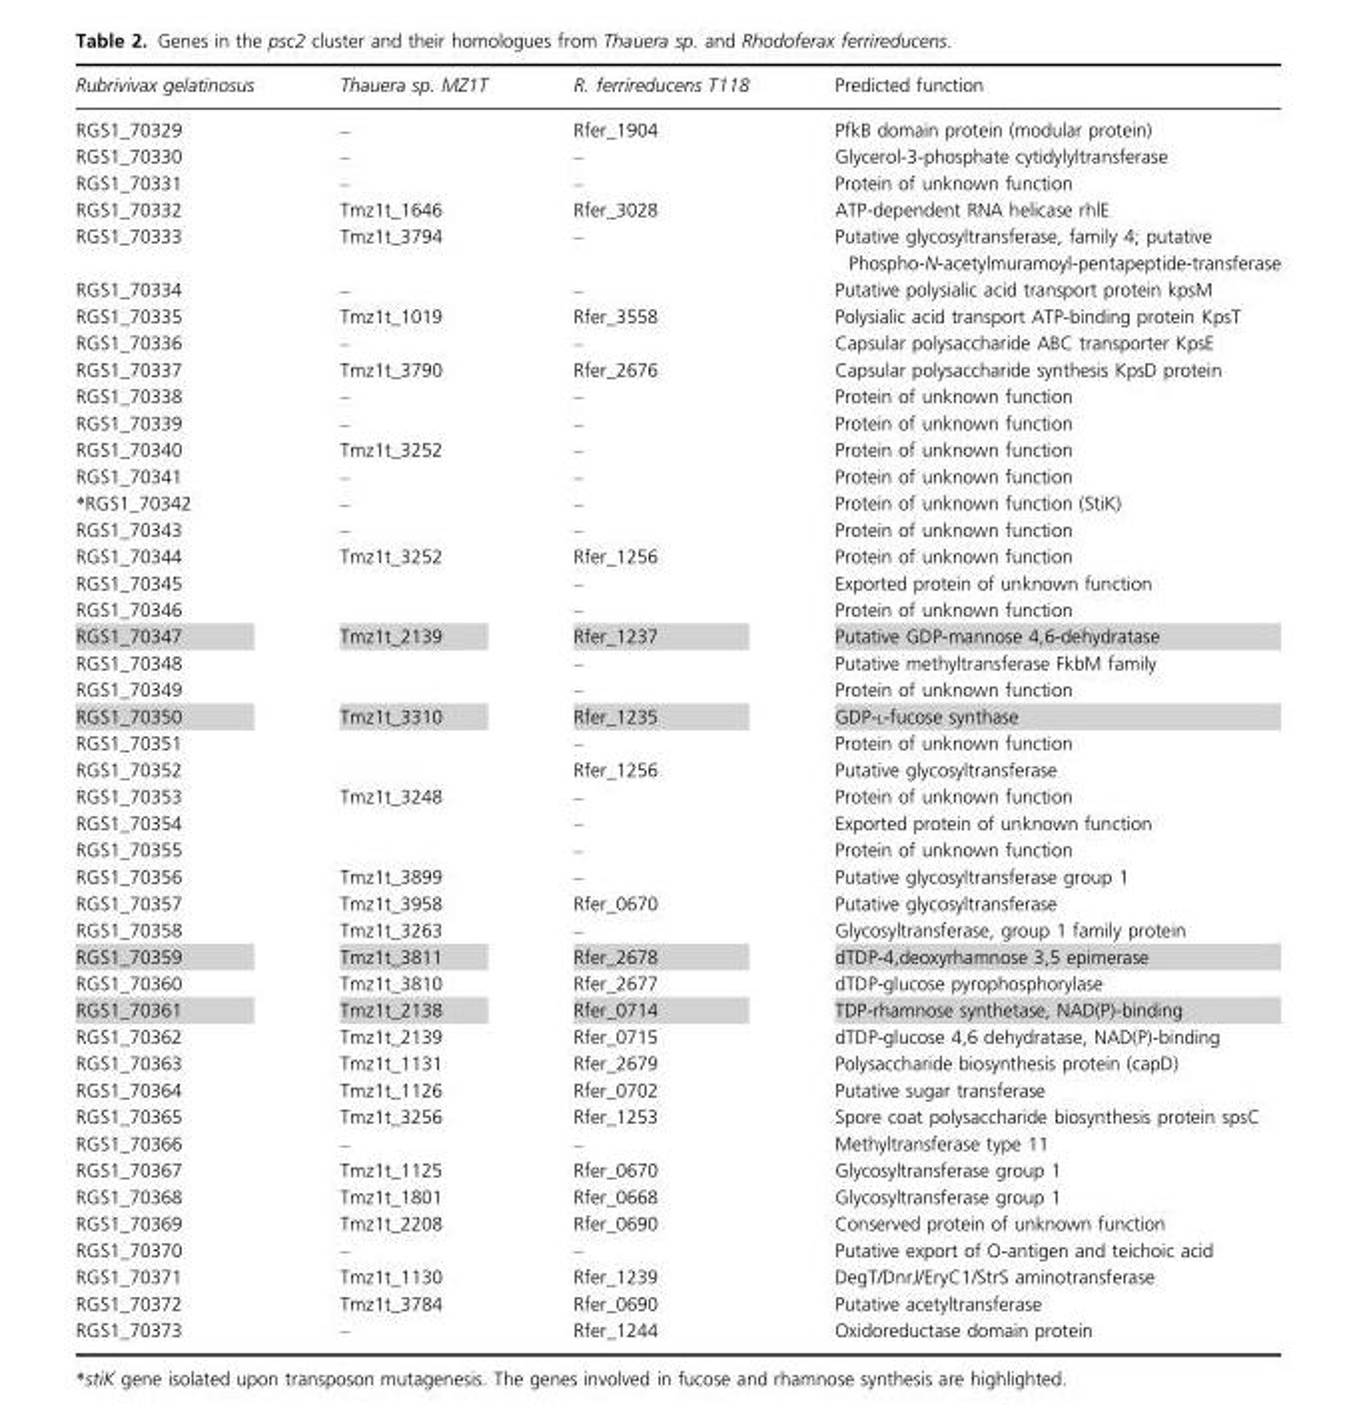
<table><thead><tr><td>Rubrivivax gelatinosus</td><td>Thauera sp. MZ1T</td><td>R. ferrireducens T118</td><td>Predicted function</td></tr></thead><tbody><tr><td>RGS1_70329</td><td>–</td><td>Rfer_1904</td><td>PfkB domain protein (modular protein)</td></tr><tr><td>RGS1_70330</td><td>–</td><td>–</td><td>Glycerol-3-phosphate cytidylyltransferase</td></tr><tr><td>RGS1_70331</td><td>–</td><td>–</td><td>Protein of unknown function</td></tr><tr><td>RGS1_70332</td><td>Tmz1t_1646</td><td>Rfer_3028</td><td>ATP-dependent RNA helicase rhlE</td></tr><tr><td>RGS1_70333</td><td>Tmz1t_3794</td><td>–</td><td>Putative glycosyltransferase, family 4; putative Phospho-N-acetylmuramoyl-pentapeptide-transferase</td></tr><tr><td>RGS1_70334</td><td>–</td><td>–</td><td>Putative polysialic acid transport protein kpsM</td></tr><tr><td>RGS1_70335</td><td>Tmz1t_1019</td><td>Rfer_3558</td><td>Polysialic acid transport ATP-binding protein KpsT</td></tr><tr><td>RGS1_70336</td><td>–</td><td>–</td><td>Capsular polysaccharide ABC transporter KpsE</td></tr><tr><td>RGS1_70337</td><td>Tmz1t_3790</td><td>Rfer_2676</td><td>Capsular polysaccharide synthesis KpsD protein</td></tr><tr><td>RGS1_70338</td><td>–</td><td>–</td><td>Protein of unknown function</td></tr><tr><td>RGS1_70339</td><td>–</td><td>–</td><td>Protein of unknown function</td></tr><tr><td>RGS1_70340</td><td>Tmz1t_3252</td><td>–</td><td>Protein of unknown function</td></tr><tr><td>RGS1_70341</td><td>–</td><td>–</td><td>Protein of unknown function</td></tr><tr><td>*RGS1_70342</td><td>–</td><td>–</td><td>Protein of unknown function (StiK)</td></tr><tr><td>RGS1_70343</td><td>–</td><td>–</td><td>Protein of unknown function</td></tr><tr><td>RGS1_70344</td><td>Tmz1t_3252</td><td>Rfer_1256</td><td>Protein of unknown function</td></tr><tr><td>RGS1_70345</td><td></td><td>–</td><td>Exported protein of unknown function</td></tr><tr><td>RGS1_70346</td><td></td><td>–</td><td>Protein of unknown function</td></tr><tr><td>RGS1_70347</td><td>Tmz1t_2139</td><td>Rfer_1237</td><td>Putative GDP-mannose 4,6-dehydratase</td></tr><tr><td>RGS1_70348</td><td></td><td>–</td><td>Putative methyltransferase FkbM family</td></tr><tr><td>RGS1_70349</td><td></td><td>–</td><td>Protein of unknown function</td></tr><tr><td>RGS1_70350</td><td>Tmz1t_3310</td><td>Rfer_1235</td><td>GDP-L-fucose synthase</td></tr><tr><td>RGS1_70351</td><td></td><td>–</td><td>Protein of unknown function</td></tr><tr><td>RGS1_70352</td><td></td><td>Rfer_1256</td><td>Putative glycosyltransferase</td></tr><tr><td>RGS1_70353</td><td>Tmz1t_3248</td><td>–</td><td>Protein of unknown function</td></tr><tr><td>RGS1_70354</td><td></td><td>–</td><td>Exported protein of unknown function</td></tr><tr><td>RGS1_70355</td><td></td><td>–</td><td>Protein of unknown function</td></tr><tr><td>RGS1_70356</td><td>Tmz1t_3899</td><td>–</td><td>Putative glycosyltransferase group 1</td></tr><tr><td>RGS1_70357</td><td>Tmz1t_3958</td><td>Rfer_0670</td><td>Putative glycosyltransferase</td></tr><tr><td>RGS1_70358</td><td>Tmz1t_3263</td><td>–</td><td>Glycosyltransferase, group 1 family protein</td></tr><tr><td>RGS1_70359</td><td>Tmz1t_3811</td><td>Rfer_2678</td><td>dTDP-4,deoxyrhamnose 3,5 epimerase</td></tr><tr><td>RGS1_70360</td><td>Tmz1t_3810</td><td>Rfer_2677</td><td>dTDP-glucose pyrophosphorylase</td></tr><tr><td>RGS1_70361</td><td>Tmz1t_2138</td><td>Rfer_0714</td><td>TDP-rhamnose synthetase, NAD(P)-binding</td></tr><tr><td>RGS1_70362</td><td>Tmz1t_2139</td><td>Rfer_0715</td><td>dTDP-glucose 4,6 dehydratase, NAD(P)-binding</td></tr><tr><td>RGS1_70363</td><td>Tmz1t_1131</td><td>Rfer_2679</td><td>Polysaccharide biosynthesis protein (capD)</td></tr><tr><td>RGS1_70364</td><td>Tmz1t_1126</td><td>Rfer_0702</td><td>Putative sugar transferase</td></tr><tr><td>RGS1_70365</td><td>Tmz1t_3256</td><td>Rfer_1253</td><td>Spore coat polysaccharide biosynthesis protein spsC</td></tr><tr><td>RGS1_70366</td><td>–</td><td>–</td><td>Methyltransferase type 11</td></tr><tr><td>RGS1_70367</td><td>Tmz1t_1125</td><td>Rfer_0670</td><td>Glycosyltransferase group 1</td></tr><tr><td>RGS1_70368</td><td>Tmz1t_1801</td><td>Rfer_0668</td><td>Glycosyltransferase group 1</td></tr><tr><td>RGS1_70369</td><td>Tmz1t_2208</td><td>Rfer_0690</td><td>Conserved protein of unknown function</td></tr><tr><td>RGS1_70370</td><td>–</td><td>–</td><td>Putative export of O-antigen and teichoic acid</td></tr><tr><td>RGS1_70371</td><td>Tmz1t_1130</td><td>Rfer_1239</td><td>DegT/DnrJ/EryC1/StrS aminotransferase</td></tr><tr><td>RGS1_70372</td><td>Tmz1t_3784</td><td>Rfer_0690</td><td>Putative acetyltransferase</td></tr><tr><td>RGS1_70373</td><td>–</td><td>Rfer_1244</td><td>Oxidoreductase domain protein</td></tr></tbody></table>